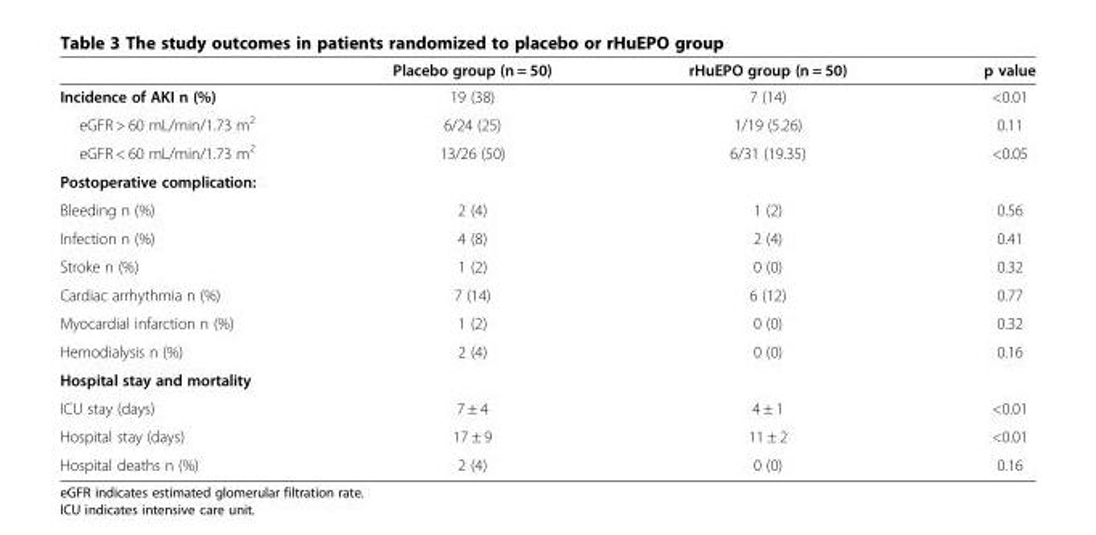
<table><thead><tr><td></td><td>Placebo group (n = 50)</td><td>rHuEPO group (n = 50)</td><td>p value</td></tr></thead><tbody><tr><td>Incidence of AKI n (%)</td><td>19 (38)</td><td>7 (14)</td><td>&lt;0.01</td></tr><tr><td>eGFR &gt; 60 mL/min/1.73 m<sup>2</sup></td><td>6/24 (25)</td><td>1/19 (5.26)</td><td>0.11</td></tr><tr><td>eGFR &lt; 60 mL/min/1.73 m<sup>2</sup></td><td>13/26 (50)</td><td>6/31 (19.35)</td><td>&lt;0.05</td></tr><tr><td colspan="4">Postoperative complication:</td></tr><tr><td>Bleeding n (%)</td><td>2 (4)</td><td>1 (2)</td><td>0.56</td></tr><tr><td>Infection n (%)</td><td>4 (8)</td><td>2 (4)</td><td>0.41</td></tr><tr><td>Stroke n (%)</td><td>1 (2)</td><td>0 (0)</td><td>0.32</td></tr><tr><td>Cardiac arrhythmia n (%)</td><td>7 (14)</td><td>6 (12)</td><td>0.77</td></tr><tr><td>Myocardial infarction n (%)</td><td>1 (2)</td><td>0 (0)</td><td>0.32</td></tr><tr><td>Hemodialysis n (%)</td><td>2 (4)</td><td>0 (0)</td><td>0.16</td></tr><tr><td colspan="4">Hospital stay and mortality</td></tr><tr><td>ICU stay (days)</td><td>7 ± 4</td><td>4 ± 1</td><td>&lt;0.01</td></tr><tr><td>Hospital stay (days)</td><td>17 ± 9</td><td>11 ± 2</td><td>&lt;0.01</td></tr><tr><td>Hospital deaths n (%)</td><td>2 (4)</td><td>0 (0)</td><td>0.16</td></tr></tbody></table>